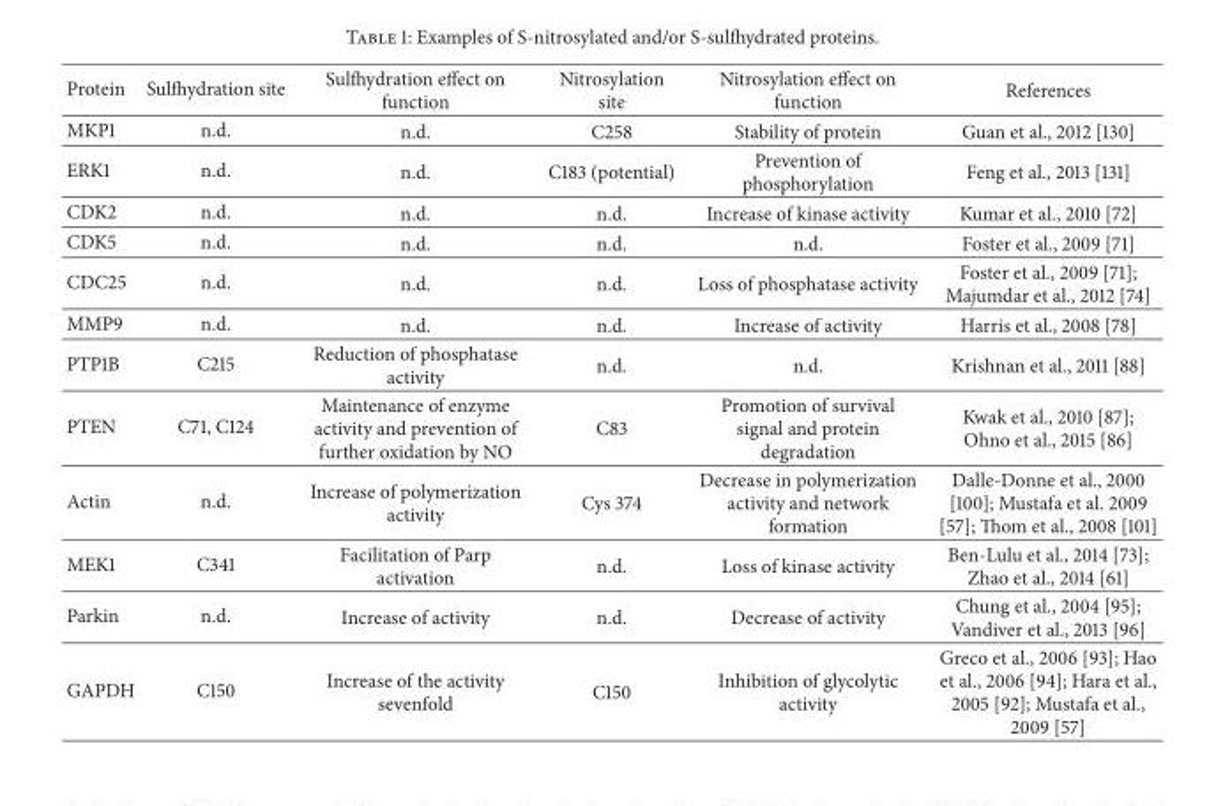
<table><thead><tr><td>Protein</td><td>Sulfhydration site</td><td>Sulfhydration effect on function</td><td>Nitrosylation site</td><td>Nitrosylation effect on function</td><td>References</td></tr></thead><tbody><tr><td>MKP1</td><td>n.d.</td><td>n.d.</td><td>C258</td><td>Stability of protein</td><td>Guan et al., 2012 [130]</td></tr><tr><td>ERK1</td><td>n.d.</td><td>n.d.</td><td>C183 (potential)</td><td>Prevention of phosphorylation</td><td>Feng et al., 2013 [131]</td></tr><tr><td>CDK2</td><td>n.d.</td><td>n.d.</td><td>n.d.</td><td>Increase of kinase activity</td><td>Kumar et al., 2010 [72]</td></tr><tr><td>CDK5</td><td>n.d.</td><td>n.d.</td><td>n.d.</td><td>n.d.</td><td>Foster et al., 2009 [71]</td></tr><tr><td>CDC25</td><td>n.d.</td><td>n.d.</td><td>n.d.</td><td>Loss of phosphatase activity</td><td>Foster et al., 2009 [71]; Majumdar et al., 2012 [74]</td></tr><tr><td>MMP9</td><td>n.d.</td><td>n.d.</td><td>n.d.</td><td>Increase of activity</td><td>Harris et al., 2008 [78]</td></tr><tr><td>PTP1B</td><td>C215</td><td>Reduction of phosphatase activity</td><td>n.d.</td><td>n.d.</td><td>Krishnan et al., 2011 [88]</td></tr><tr><td>PTEN</td><td>C71, C124</td><td>Maintenance of enzyme activity and prevention of further oxidation by NO</td><td>C83</td><td>Promotion of survival signal and protein degradation</td><td>Kwak et al., 2010 [87]; Ohno et al., 2015 [86]</td></tr><tr><td>Actin</td><td>n.d.</td><td>Increase of polymerization activity</td><td>Cys 374</td><td>Decrease in polymerization activity and network formation</td><td>Dalle-Donne et al., 2000 [100]; Mustafa et al. 2009 [57]; Thom et al., 2008 [101]</td></tr><tr><td>MEK1</td><td>C341</td><td>Facilitation of Parp activation</td><td>n.d.</td><td>Loss of kinase activity</td><td>Ben-Lulu et al., 2014 [73]; Zhao et al., 2014 [61]</td></tr><tr><td>Parkin</td><td>n.d.</td><td>Increase of activity</td><td>n.d.</td><td>Decrease of activity</td><td>Chung et al., 2004 [95]; Vandiver et al., 2013 [96]</td></tr><tr><td>GAPDH</td><td>C150</td><td>Increase of the activity sevenfold</td><td>C150</td><td>Inhibition of glycolytic activity</td><td>Greco et al., 2006 [93]; Hao et al., 2006 [94]; Hara et al., 2005 [92]; Mustafa et al., 2009 [57]</td></tr></tbody></table>